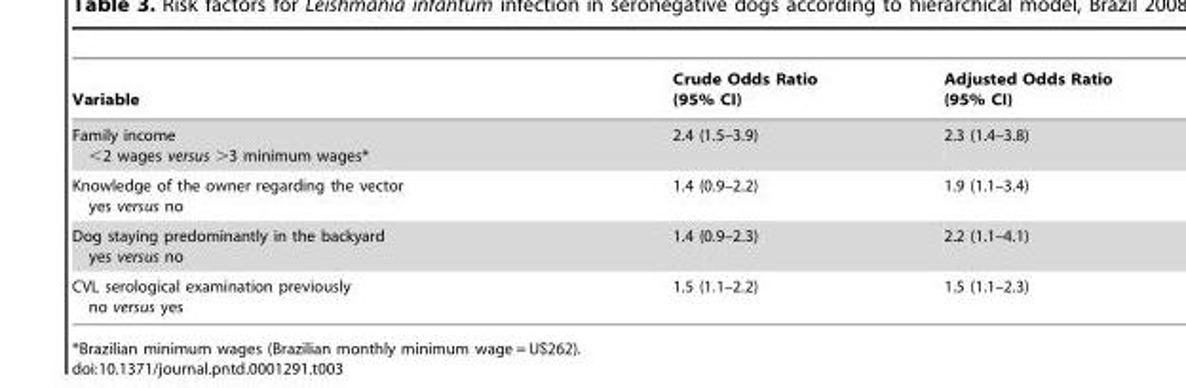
<table><thead><tr><td>Variable</td><td>Crude Odds Ratio (95% CI)</td><td>Adjusted Odds Ratio (95% CI)</td></tr></thead><tbody><tr><td>Family income &lt;2 wages versus &gt;3 minimum wages*</td><td>2.4 (1.5–3.9)</td><td>2.3 (1.4–3.8)</td></tr><tr><td>Knowledge of the owner regarding the vector yes versus no</td><td>1.4 (0.9–2.2)</td><td>1.9 (1.1–3.4)</td></tr><tr><td>Dog staying predominantly in the backyard yes versus no</td><td>1.4 (0.9–2.3)</td><td>2.2 (1.1–4.1)</td></tr><tr><td>CVL serological examination previously no versus yes</td><td>1.5 (1.1–2.2)</td><td>1.5 (1.1–2.3)</td></tr></tbody></table>